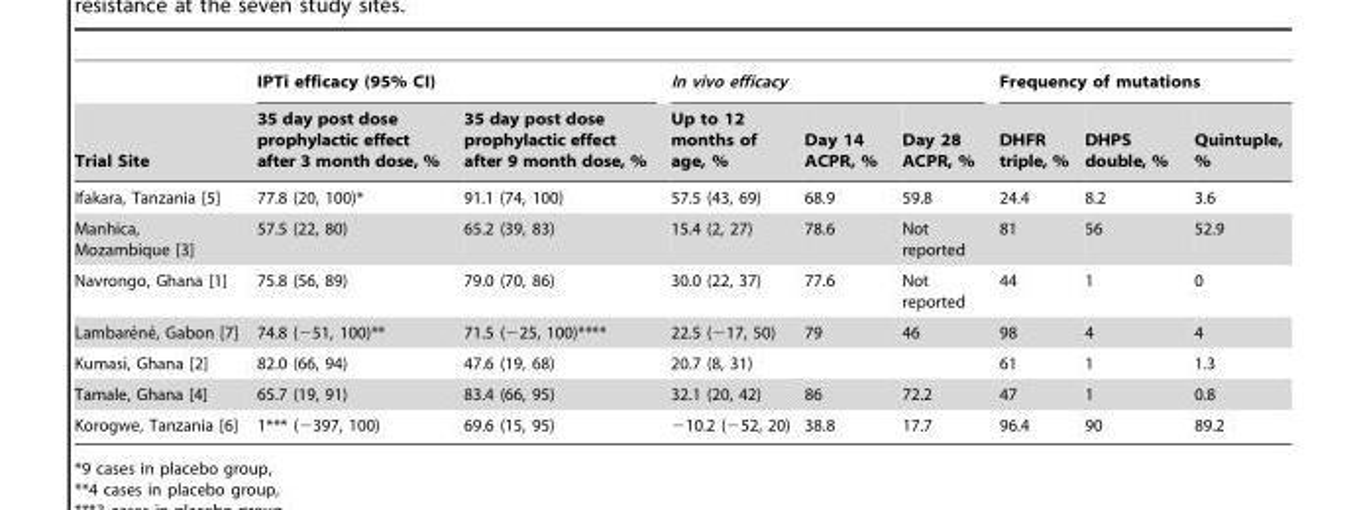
<table><thead><tr><td rowspan="2">Trial Site</td><td colspan="2">IPTi efficacy (95% CI)</td><td colspan="3">In vivo efficacy</td><td colspan="3">Frequency of mutations</td></tr><tr><td>35 day post dose prophylactic effect after 3 month dose, %</td><td>35 day post dose prophylactic effect after 9 month dose, %</td><td>Up to 12 months of age, %</td><td>Day 14 ACPR, %</td><td>Day 28 ACPR, %</td><td>DHFR triple, %</td><td>DHPS double, %</td><td>Quintuple, %</td></tr></thead><tbody><tr><td>Ifakara, Tanzania [5]</td><td>77.8 (20, 100)*</td><td>91.1 (74, 100)</td><td>57.5 (43, 69)</td><td>68.9</td><td>59.8</td><td>24.4</td><td>8.2</td><td>3.6</td></tr><tr><td>Manhica, Mozambique [3]</td><td>57.5 (22, 80)</td><td>65.2 (39, 83)</td><td>15.4 (2, 27)</td><td>78.6</td><td>Not reported</td><td>81</td><td>56</td><td>52.9</td></tr><tr><td>Navrongo, Ghana [1]</td><td>75.8 (56, 89)</td><td>79.0 (70, 86)</td><td>30.0 (22, 37)</td><td>77.6</td><td>Not reported</td><td>44</td><td>1</td><td>0</td></tr><tr><td>Lambare´ne´, Gabon [7]</td><td>74.8 (−51, 100)**</td><td>71.5 (−25, 100)****</td><td>22.5 (−17, 50)</td><td>79</td><td>46</td><td>98</td><td>4</td><td>4</td></tr><tr><td>Kumasi, Ghana [2]</td><td>82.0 (66, 94)</td><td>47.6 (19, 68)</td><td>20.7 (8, 31)</td><td></td><td></td><td>61</td><td>1</td><td>1.3</td></tr><tr><td>Tamale, Ghana [4]</td><td>65.7 (19, 91)</td><td>83.4 (66, 95)</td><td>32.1 (20, 42)</td><td>86</td><td>72.2</td><td>47</td><td>1</td><td>0.8</td></tr><tr><td>Korogwe, Tanzania [6]</td><td>1*** (−397, 100)</td><td>69.6 (15, 95)</td><td>−10.2 (−52, 20)</td><td>38.8</td><td>17.7</td><td>96.4</td><td>90</td><td>89.2</td></tr></tbody></table>